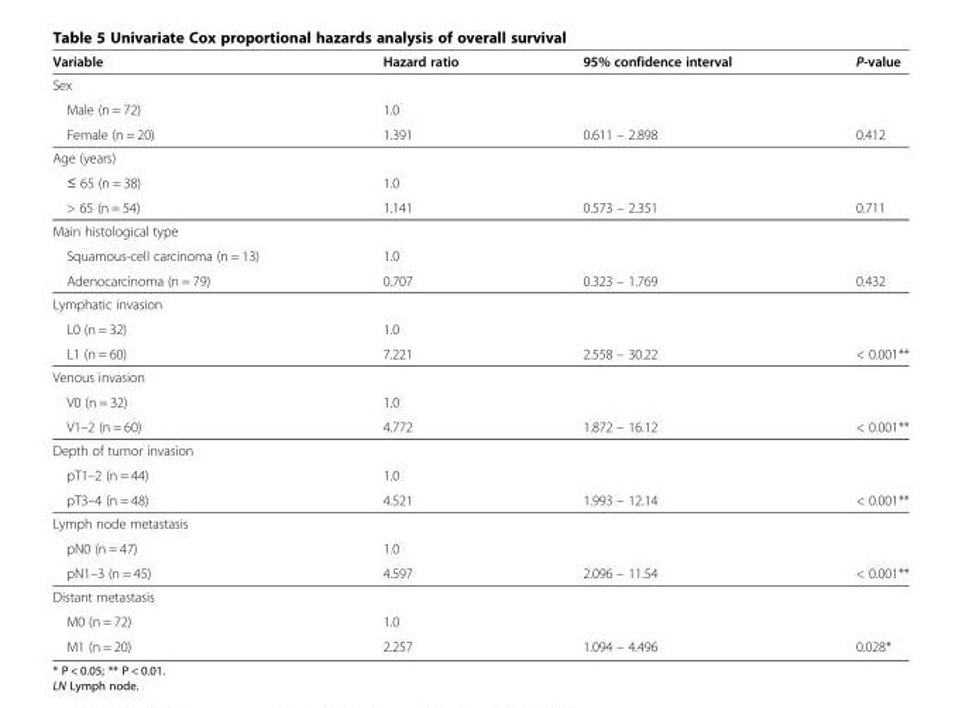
<table><thead><tr><td>Variable</td><td>Hazard ratio</td><td>95% confidence interval</td><td>P-value</td></tr></thead><tbody><tr><td colspan="4">Sex</td></tr><tr><td>Male (n = 72)</td><td>1.0</td><td></td><td></td></tr><tr><td>Female (n = 20)</td><td>1.391</td><td>0.611 – 2.898</td><td>0.412</td></tr><tr><td colspan="4">Age (years)</td></tr><tr><td>≤ 65 (n = 38)</td><td>1.0</td><td></td><td></td></tr><tr><td>&gt; 65 (n = 54)</td><td>1.141</td><td>0.573 – 2.351</td><td>0.711</td></tr><tr><td colspan="4">Main histological type</td></tr><tr><td>Squamous-cell carcinoma (n = 13)</td><td>1.0</td><td></td><td></td></tr><tr><td>Adenocarcinoma (n = 79)</td><td>0.707</td><td>0.323 – 1.769</td><td>0.432</td></tr><tr><td colspan="4">Lymphatic invasion</td></tr><tr><td>L0 (n = 32)</td><td>1.0</td><td></td><td></td></tr><tr><td>L1 (n = 60)</td><td>7.221</td><td>2.558 – 30.22</td><td>&lt; 0.001**</td></tr><tr><td colspan="4">Venous invasion</td></tr><tr><td>V0 (n = 32)</td><td>1.0</td><td></td><td></td></tr><tr><td>V1–2 (n = 60)</td><td>4.772</td><td>1.872 – 16.12</td><td>&lt; 0.001**</td></tr><tr><td colspan="4">Depth of tumor invasion</td></tr><tr><td>pT1–2 (n = 44)</td><td>1.0</td><td></td><td></td></tr><tr><td>pT3–4 (n = 48)</td><td>4.521</td><td>1.993 – 12.14</td><td>&lt; 0.001**</td></tr><tr><td colspan="4">Lymph node metastasis</td></tr><tr><td>pN0 (n = 47)</td><td>1.0</td><td></td><td></td></tr><tr><td>pN1–3 (n = 45)</td><td>4.597</td><td>2.096 – 11.54</td><td>&lt; 0.001**</td></tr><tr><td colspan="4">Distant metastasis</td></tr><tr><td>M0 (n = 72)</td><td>1.0</td><td></td><td></td></tr><tr><td>M1 (n = 20)</td><td>2.257</td><td>1.094 – 4.496</td><td>0.028*</td></tr></tbody></table>